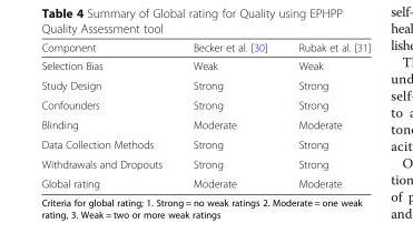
<table><thead><tr><td>Component</td><td>Becker et al. [30]</td><td>Rubak et al. [31]</td></tr></thead><tbody><tr><td>Selection Bias</td><td>Weak</td><td>Weak</td></tr><tr><td>Study Design</td><td>Strong</td><td>Strong</td></tr><tr><td>Confounders</td><td>Strong</td><td>Strong</td></tr><tr><td>Blinding</td><td>Moderate</td><td>Moderate</td></tr><tr><td>Data Collection Methods</td><td>Strong</td><td>Strong</td></tr><tr><td>Withdrawals and Dropouts</td><td>Strong</td><td>Strong</td></tr><tr><td>Global rating</td><td>Moderate</td><td>Moderate</td></tr></tbody></table>